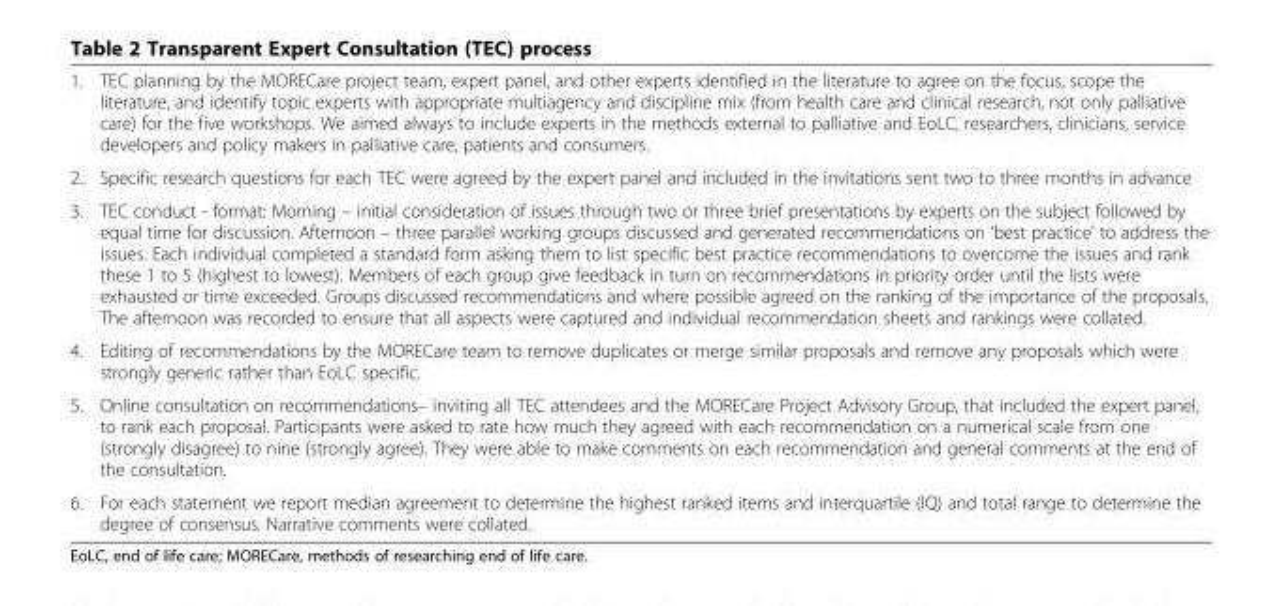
<table><tbody><tr><td>1.</td><td>TEC planning by the MORECare project team, expert panel, and other experts identified in the literature to agree on the focus, scope the literature, and identify topic experts with appropriate multiagency and discipline mix (from health care and clinical research, not only palliative care) for the five workshops. We aimed always to include experts in the methods external to palliative and EoLC, researchers, clinicians, service developers and policy makers in palliative care, patients and consumers.</td></tr><tr><td>2..</td><td>Specific research questions for each TEC were agreed by the expert panel and included in the invitations sent two to three months in advance</td></tr><tr><td>3.</td><td>TEC conduct - format: Morning – initial consideration of issues through two or three brief presentations by experts on the subject followed by equal time for discussion. Afternoon – three parallel working groups discussed and generated recommendations on ‘best practice’ to address the issues. Each individual completed a standard form asking them to list specific best practice recommendations to overcome the issues and rank these 1 to 5 (highest to lowest). Members of each group give feedback in turn on recommendations in priority order until the lists were exhausted or time exceeded. Groups discussed recommendations and where possible agreed on the ranking of the importance of the proposals. The afternoon was recorded to ensure that all aspects were captured and individual recommendation sheets and rankings were collated.</td></tr><tr><td>4.</td><td>Editing of recommendations by the MORECare team to remove duplicates or merge similar proposals and remove any proposals which were strongly generic rather than EoLC specific.</td></tr><tr><td>5.</td><td>Online consultation on recommendations– inviting all TEC attendees and the MORECare Project Advisory Group, that included the expert panel, to rank each proposal. Participants were asked to rate how much they agreed with each recommendation on a numerical scale from one (strongly disagree) to nine (strongly agree). They were able to make comments on each recommendation and general comments at the end of the consultation.</td></tr><tr><td>6.</td><td>For each statement we report median agreement to determine the highest ranked items and interquartile (IQ) and total range to determine the degree of consensus. Narrative comments were collated.</td></tr></tbody></table>